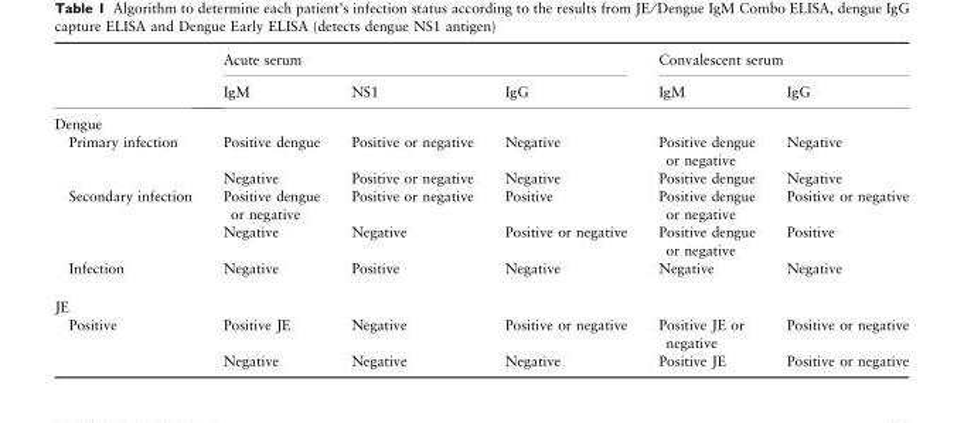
<table><thead><tr><td rowspan="2"></td><td colspan="3">Acute serum</td><td colspan="2">Convalescent serum</td></tr><tr><td>IgM</td><td>NS1</td><td>IgG</td><td>IgM</td><td>IgG</td></tr></thead><tbody><tr><td colspan="6">Dengue</td></tr><tr><td rowspan="2">Primary infection</td><td>Positive dengue</td><td>Positive or negative</td><td>Negative</td><td>Positive dengue or negative</td><td>Negative</td></tr><tr><td>Negative</td><td>Positive or negative</td><td>Negative</td><td>Positive dengue</td><td>Negative</td></tr><tr><td rowspan="2">Secondary infection</td><td>Positive dengue or negative</td><td>Positive or negative</td><td>Positive</td><td>Positive dengue or negative</td><td>Positive or negative</td></tr><tr><td>Negative</td><td>Negative</td><td>Positive or negative</td><td>Positive dengue or negative</td><td>Positive</td></tr><tr><td>Infection</td><td>Negative</td><td>Positive</td><td>Negative</td><td>Negative</td><td>Negative</td></tr><tr><td colspan="6">JE</td></tr><tr><td rowspan="2">Positive</td><td>Positive JE</td><td>Negative</td><td>Positive or negative</td><td>Positive JE or negative</td><td>Positive or negative</td></tr><tr><td>Negative</td><td>Negative</td><td>Negative</td><td>Positive JE</td><td>Positive or negative</td></tr></tbody></table>